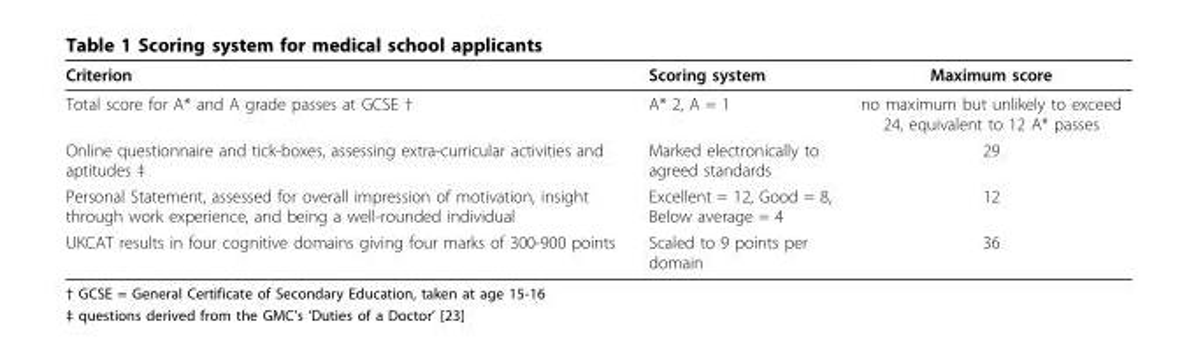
<table><thead><tr><td>Criterion</td><td>Scoring system</td><td>Maximum score</td></tr></thead><tbody><tr><td>Total score for A* and A grade passes at GCSE †</td><td>A* 2, A = 1</td><td>no maximum but unlikely to exceed 24, equivalent to 12 A* passes</td></tr><tr><td>Online questionnaire and tick-boxes, assessing extra-curricular activities and aptitudes ‡</td><td>Marked electronically to agreed standards</td><td>29</td></tr><tr><td>Personal Statement, assessed for overall impression of motivation, insight through work experience, and being a well-rounded individual</td><td>Excellent = 12, Good = 8, Below average = 4</td><td>12</td></tr><tr><td>UKCAT results in four cognitive domains giving four marks of 300-900 points</td><td>Scaled to 9 points per domain</td><td>36</td></tr></tbody></table>